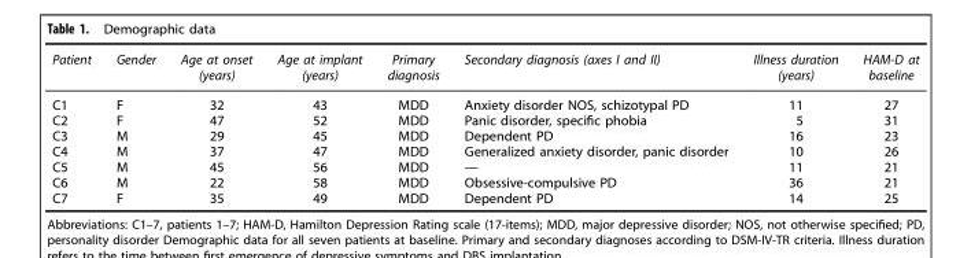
<table><thead><tr><td>Patient</td><td>Gender</td><td>Age at onset (years)</td><td>Age at implant (years)</td><td>Primary diagnosis</td><td>Secondary diagnosis (axes I and II)</td><td>Illness duration (years)</td><td>HAM-D at baseline</td></tr></thead><tbody><tr><td>C1</td><td>F</td><td>32</td><td>43</td><td>MDD</td><td>Anxiety disorder NOS, schizotypal PD</td><td>11</td><td>27</td></tr><tr><td>C2</td><td>F</td><td>47</td><td>52</td><td>MDD</td><td>Panic disorder, specific phobia</td><td>5</td><td>31</td></tr><tr><td>C3</td><td>M</td><td>29</td><td>45</td><td>MDD</td><td>Dependent PD</td><td>16</td><td>23</td></tr><tr><td>C4</td><td>M</td><td>37</td><td>47</td><td>MDD</td><td>Generalized anxiety disorder, panic disorder</td><td>10</td><td>26</td></tr><tr><td>C5</td><td>M</td><td>45</td><td>56</td><td>MDD</td><td>—</td><td>11</td><td>21</td></tr><tr><td>C6</td><td>M</td><td>22</td><td>58</td><td>MDD</td><td>Obsessive-compulsive PD</td><td>36</td><td>21</td></tr><tr><td>C7</td><td>F</td><td>35</td><td>49</td><td>MDD</td><td>Dependent PD</td><td>14</td><td>25</td></tr></tbody></table>